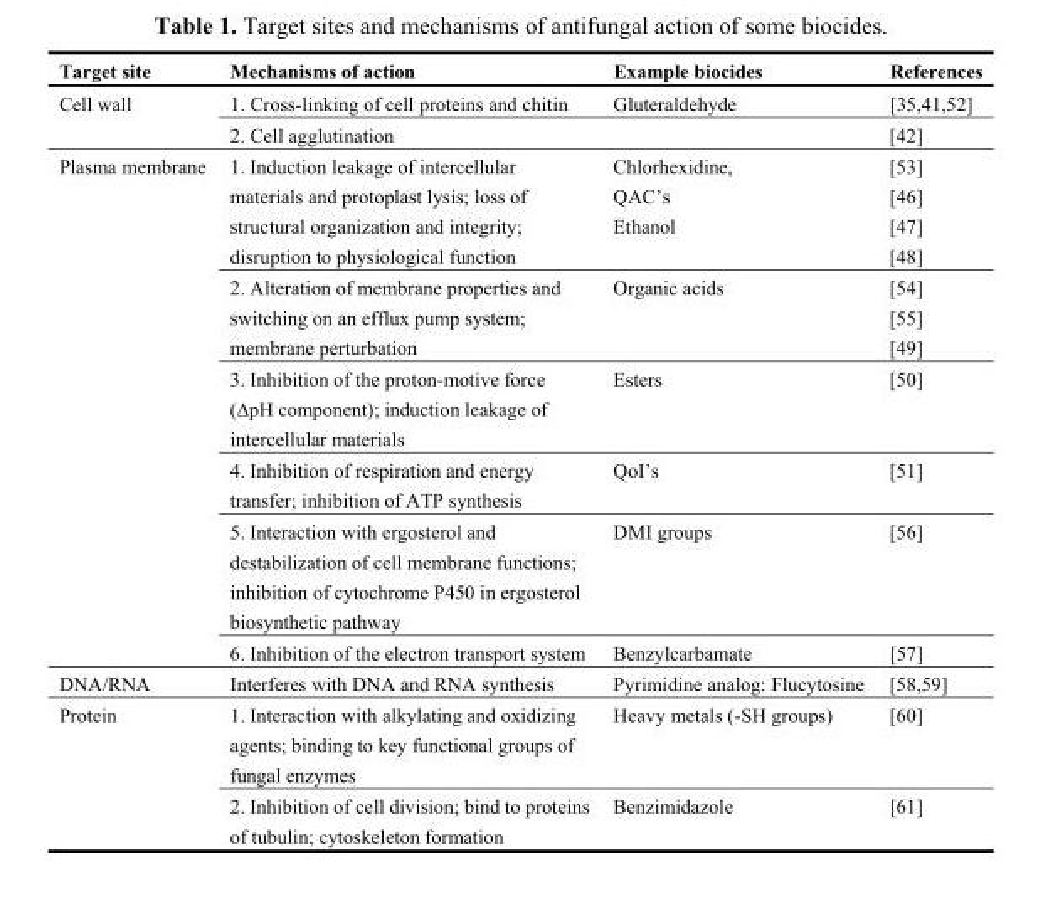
<table><thead><tr><td>Target site</td><td>Mechanisms of action</td><td>Example biocides</td><td>References</td></tr></thead><tbody><tr><td rowspan="2">Cell wall</td><td>1. Cross-linking of cell proteins and chitin</td><td>Gluteraldehyde</td><td>[35,41,52]</td></tr><tr><td>2. Cell agglutination</td><td></td><td>[42]</td></tr><tr><td rowspan="6">Plasma membrane</td><td>1. Induction leakage of intercellular materials and protoplast lysis; loss of structural organization and integrity; disruption to physiological function</td><td>Chlorhexidine, QAC’s Ethanol</td><td>[53] [46] [47] [48]</td></tr><tr><td>2. Alteration of membrane properties and switching on an efflux pump system; membrane perturbation</td><td>Organic acids</td><td>[54] [55] [49]</td></tr><tr><td>3. Inhibition of the proton-motive force (∆pH component); induction leakage of intercellular materials</td><td>Esters</td><td>[50]</td></tr><tr><td>4. Inhibition of respiration and energy transfer; inhibition of ATP synthesis</td><td>QoI’s</td><td>[51]</td></tr><tr><td>5. Interaction with ergosterol and destabilization of cell membrane functions; inhibition of cytochrome P450 in ergosterol biosynthetic pathway</td><td>DMI groups</td><td>[56]</td></tr><tr><td>6. Inhibition of the electron transport system</td><td>Benzylcarbamate</td><td>[57]</td></tr><tr><td>DNA/RNA</td><td>Interferes with DNA and RNA synthesis</td><td>Pyrimidine analog: Flucytosine</td><td>[58,59]</td></tr><tr><td rowspan="2">Protein</td><td>1. Interaction with alkylating and oxidizing agents; binding to key functional groups of fungal enzymes</td><td>Heavy metals (-SH groups)</td><td>[60]</td></tr><tr><td>2. Inhibition of cell division; bind to proteins of tubulin; cytoskeleton formation</td><td>Benzimidazole</td><td>[61]</td></tr></tbody></table>